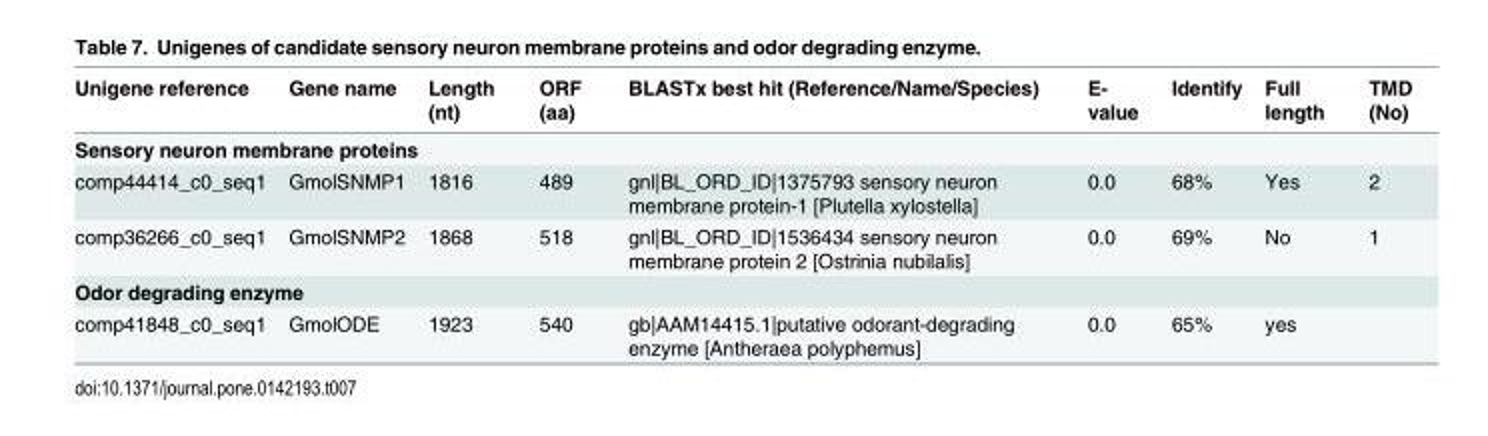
<table><thead><tr><td>Unigene reference</td><td>Gene name</td><td>Length (nt)</td><td>ORF (aa)</td><td>BLASTx best hit (Reference/Name/Species)</td><td>E- value</td><td>Identify</td><td>Full length</td><td>TMD (No)</td></tr></thead><tbody><tr><td colspan="9">Sensory neuron membrane proteins</td></tr><tr><td>comp44414_c0_seq1</td><td>GmolSNMP1</td><td>1816</td><td>489</td><td>gnl|BL_ORD_ID|1375793 sensory neuron membrane protein-1 [Plutella xylostella]</td><td>0.0</td><td>68%</td><td>Yes</td><td>2</td></tr><tr><td>comp36266_c0_seq1</td><td>GmolSNMP2</td><td>1868</td><td>518</td><td>gnl|BL_ORD_ID|1536434 sensory neuron membrane protein 2 [Ostrinia nubilalis]</td><td>0.0</td><td>69%</td><td>No</td><td>1</td></tr><tr><td colspan="9">Odor degrading enzyme</td></tr><tr><td>comp41848_c0_seq1</td><td>GmolODE</td><td>1923</td><td>540</td><td>gb|AAM14415.1|putative odorant-degrading enzyme [Antheraea polyphemus]</td><td>0.0</td><td>65%</td><td>yes</td><td></td></tr></tbody></table>